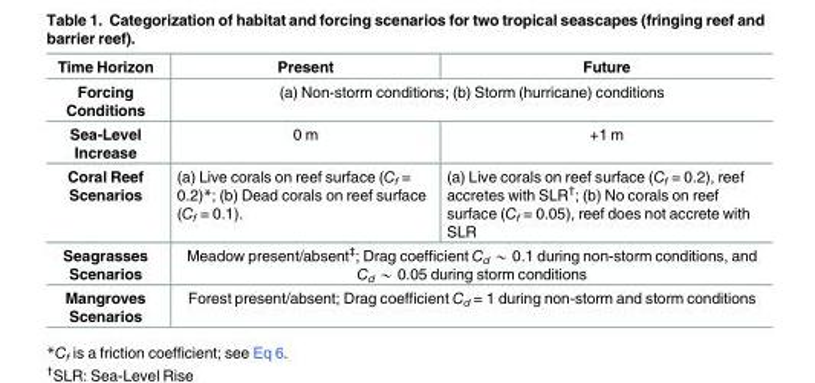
<table><thead><tr><td>Time Horizon</td><td>Present</td><td>Future</td></tr></thead><tbody><tr><td>Forcing Conditions</td><td colspan="2">(a) Non-storm conditions; (b) Storm (hurricane) conditions</td></tr><tr><td>Sea-Level Increase</td><td>0 m</td><td>+1 m</td></tr><tr><td>Coral Reef Scenarios</td><td>(a) Live corals on reef surface (C<sub>f</sub> = 0.2)*; (b) Dead corals on reef surface (C<sub>f</sub> = 0.1).</td><td>(a) Live corals on reef surface (C<sub>f</sub> = 0.2), reef accretes with SLR<sup>†</sup>; (b) No corals on reef surface (C<sub>f</sub> = 0.05), reef does not accrete with SLR</td></tr><tr><td>Seagrasses Scenarios</td><td colspan="2">Meadow present/absent‡; Drag coefficient Cd * 0.1 during non-storm conditions, and Cd * 0.05 during storm conditions</td></tr><tr><td>Mangroves Scenarios</td><td colspan="2">Forest present/absent; Drag coefficient C<sub>d</sub> = 1 during non-storm and storm conditions</td></tr></tbody></table>